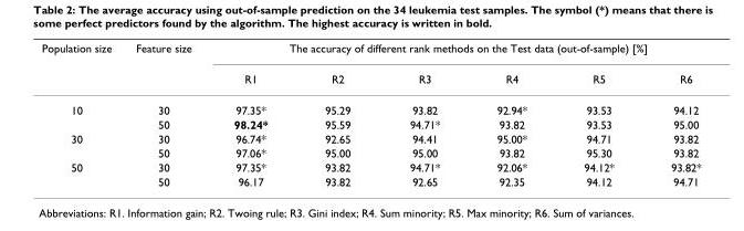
<table><thead><tr><td rowspan="2">Population size</td><td rowspan="2">Feature size</td><td colspan="6">The accuracy of different rank methods on the Test data (out-of-sample) [%]</td></tr><tr><td>R1</td><td>R2</td><td>R3</td><td>R4</td><td>R5</td><td>R6</td></tr></thead><tbody><tr><td rowspan="2">10</td><td>30</td><td>97.35*</td><td>95.29</td><td>93.82</td><td>92.94*</td><td>93.53</td><td>94.12</td></tr><tr><td>50</td><td>98.24*</td><td>95.59</td><td>94.71*</td><td>93.82</td><td>93.53</td><td>95.00</td></tr><tr><td rowspan="2">30</td><td>30</td><td>96.74*</td><td>92.65</td><td>94.41</td><td>95.00*</td><td>94.71</td><td>93.82</td></tr><tr><td>50</td><td>97.06*</td><td>95.00</td><td>95.00</td><td>93.82</td><td>95.30</td><td>93.82</td></tr><tr><td rowspan="2">50</td><td>30</td><td>97.35*</td><td>93.82</td><td>94.71*</td><td>92.06*</td><td>94.12*</td><td>93.82*</td></tr><tr><td>50</td><td>96.17</td><td>93.82</td><td>92.65</td><td>92.35</td><td>94.12</td><td>94.71</td></tr></tbody></table>